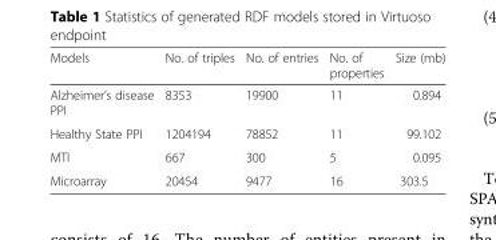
<table><thead><tr><td>Models</td><td>No. of triples</td><td>No. of entries</td><td>No. of properties</td><td>Size (mb)</td></tr></thead><tbody><tr><td>Alzheimer’s disease PPI</td><td>8353</td><td>19900</td><td>11</td><td>0.894</td></tr><tr><td>Healthy State PPI</td><td>1204194</td><td>78852</td><td>11</td><td>99.102</td></tr><tr><td>MTI</td><td>667</td><td>300</td><td>5</td><td>0.095</td></tr><tr><td>Microarray</td><td>20454</td><td>9477</td><td>16</td><td>303.5</td></tr></tbody></table>